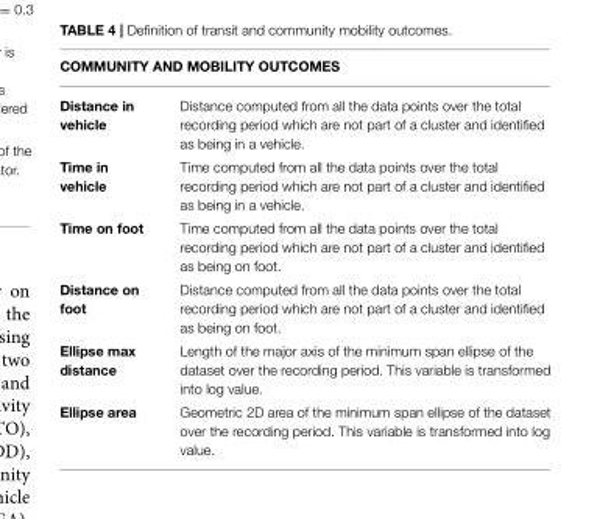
<table><thead><tr><td colspan="2">COMMUNITY AND MOBILITY OUTCOMES</td></tr><tr><td>Distance in vehicle</td><td>Distance computed from all the data points over the total recording period which are not part of a cluster and identified as being in a vehicle.</td></tr></thead><tbody><tr><td>Time in vehicle</td><td>Time computed from all the data points over the total recording period which are not part of a cluster and identified as being in a vehicle.</td></tr><tr><td>Time on foot</td><td>Time computed from all the data points over the total recording period which are not part of a cluster and identified as being on foot.</td></tr><tr><td>Distance on foot</td><td>Distance computed from all the data points over the total recording period which are not part of a cluster and identified as being on foot.</td></tr><tr><td>Ellipse max distance</td><td>Length of the major axis of the minimum span ellipse of the dataset over the recording period. This variable is transformed into log value.</td></tr><tr><td>Ellipse area</td><td>Geometric 2D area of the minimum span ellipse of the dataset over the recording period. This variable is transformed into log value.</td></tr></tbody></table>